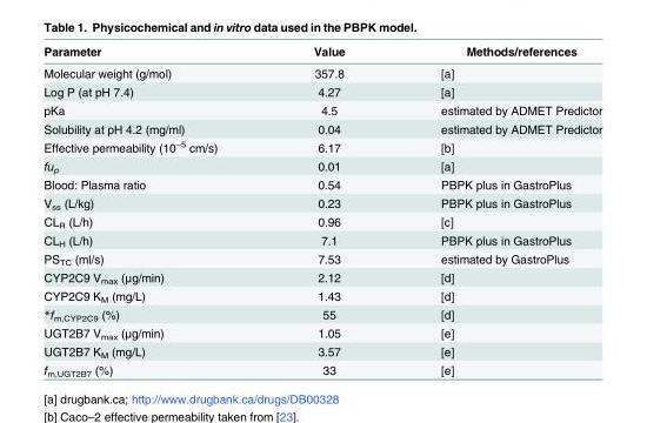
<table><thead><tr><td>Parameter</td><td>Value</td><td>Methods/references</td></tr></thead><tbody><tr><td>Molecular weight (g/mol)</td><td>357.8</td><td>[a]</td></tr><tr><td>Log P (at pH 7.4)</td><td>4.27</td><td>[a]</td></tr><tr><td>pKa</td><td>4.5</td><td>estimated by ADMET Predictor</td></tr><tr><td>Solubility at pH 4.2 (mg/ml)</td><td>0.04</td><td>estimated by ADMET Predictor</td></tr><tr><td>Effective permeability (10<sup>−5</sup> cm/s)</td><td>6.17</td><td>[b]</td></tr><tr><td>fu<sub>p</sub></td><td>0.01</td><td>[a]</td></tr><tr><td>Blood: Plasma ratio</td><td>0.54</td><td>PBPK plus in GastroPlus</td></tr><tr><td>V<sub>ss</sub> (L/kg)</td><td>0.23</td><td>PBPK plus in GastroPlus</td></tr><tr><td>CL<sub>R</sub> (L/h)</td><td>0.96</td><td>[c]</td></tr><tr><td>CL<sub>H</sub> (L/h)</td><td>7.1</td><td>PBPK plus in GastroPlus</td></tr><tr><td>PS<sub>TC</sub> (ml/s)</td><td>7.53</td><td>estimated by GastroPlus</td></tr><tr><td>CYP2C9 V<sub>max</sub> (μg/min)</td><td>2.12</td><td>[d]</td></tr><tr><td>CYP2C9 K<sub>M</sub> (mg/L)</td><td>1.43</td><td>[d]</td></tr><tr><td>*f<sub>m,CYP2C9</sub> (%)</td><td>55</td><td>[d]</td></tr><tr><td>UGT2B7 V<sub>max</sub> (μg/min)</td><td>1.05</td><td>[e]</td></tr><tr><td>UGT2B7 K<sub>M</sub> (mg/L)</td><td>3.57</td><td>[e]</td></tr><tr><td>f<sub>m,UGT2B7</sub> (%)</td><td>33</td><td>[e]</td></tr></tbody></table>